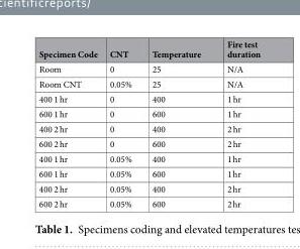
<table><thead><tr><td>Specimen Code</td><td>CNT</td><td>Temperature</td><td>Fire test duration</td></tr></thead><tbody><tr><td>Room</td><td>0</td><td>25</td><td>N/A</td></tr><tr><td>Room CNT</td><td>0.05%</td><td>25</td><td>N/A</td></tr><tr><td>400 1 hr</td><td>0</td><td>400</td><td>1 hr</td></tr><tr><td>600 1 hr</td><td>0</td><td>600</td><td>1 hr</td></tr><tr><td>400 2 hr</td><td>0</td><td>400</td><td>2 hr</td></tr><tr><td>600 2 hr</td><td>0</td><td>600</td><td>2 hr</td></tr><tr><td>400 1 hr</td><td>0.05%</td><td>400</td><td>1 hr</td></tr><tr><td>600 1 hr</td><td>0.05%</td><td>600</td><td>1 hr</td></tr><tr><td>400 2 hr</td><td>0.05%</td><td>400</td><td>2 hr</td></tr><tr><td>600 2 hr</td><td>0.05%</td><td>600</td><td>2 hr</td></tr></tbody></table>